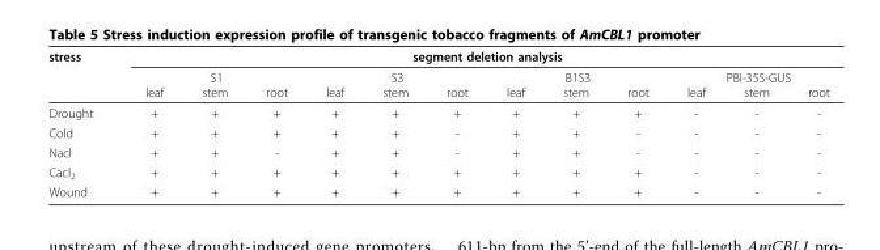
<table><thead><tr><td rowspan="3">stress</td><td colspan="12">segment deletion analysis</td></tr><tr><td colspan="3">S1</td><td colspan="3">S3</td><td colspan="3">B1S3</td><td colspan="3">PBI-35S-GUS</td></tr><tr><td>leaf</td><td>stem</td><td>root</td><td>leaf</td><td>stem</td><td>root</td><td>leaf</td><td>stem</td><td>root</td><td>leaf</td><td>stem</td><td>root</td></tr></thead><tbody><tr><td>Drought</td><td>+</td><td>+</td><td>+</td><td>+</td><td>+</td><td>+</td><td>+</td><td>+</td><td>+</td><td>-</td><td>-</td><td>-</td></tr><tr><td>Cold</td><td>+</td><td>+</td><td>+</td><td>+</td><td>+</td><td>-</td><td>+</td><td>+</td><td>-</td><td>-</td><td>-</td><td>-</td></tr><tr><td>Nacl</td><td>+</td><td>+</td><td>-</td><td>+</td><td>+</td><td>-</td><td>+</td><td>+</td><td>-</td><td>-</td><td>-</td><td>-</td></tr><tr><td>Cacl<sub>2</sub></td><td>+</td><td>+</td><td>+</td><td>+</td><td>+</td><td>+</td><td>+</td><td>+</td><td>+</td><td>-</td><td>-</td><td>-</td></tr><tr><td>Wound</td><td>+</td><td>+</td><td>+</td><td>+</td><td>+</td><td>+</td><td>+</td><td>+</td><td>+</td><td>-</td><td>-</td><td>-</td></tr></tbody></table>